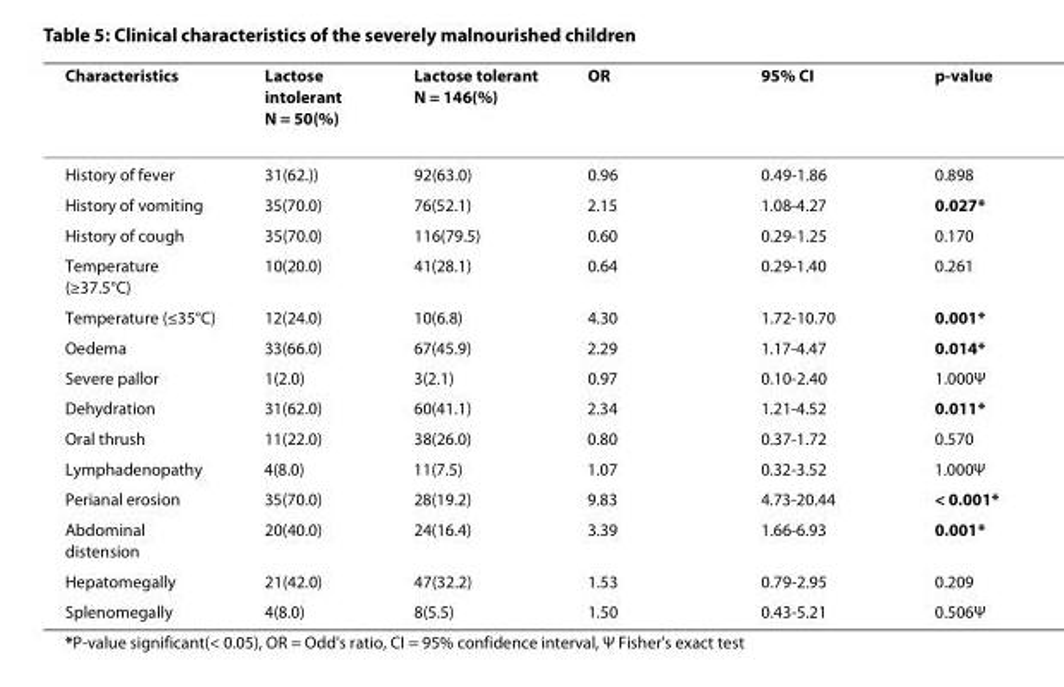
<table><thead><tr><td>Characteristics</td><td>Lactose intolerant N = 50(%)</td><td>Lactose tolerant N = 146(%)</td><td>OR</td><td>95% CI</td><td>p-value</td></tr></thead><tbody><tr><td>History of fever</td><td>31(62.))</td><td>92(63.0)</td><td>0.96</td><td>0.49-1.86</td><td>0.898</td></tr><tr><td>History of vomiting</td><td>35(70.0)</td><td>76(52.1)</td><td>2.15</td><td>1.08-4.27</td><td>0.027*</td></tr><tr><td>History of cough</td><td>35(70.0)</td><td>116(79.5)</td><td>0.60</td><td>0.29-1.25</td><td>0.170</td></tr><tr><td>Temperature (≥37.5°C)</td><td>10(20.0)</td><td>41(28.1)</td><td>0.64</td><td>0.29-1.40</td><td>0.261</td></tr><tr><td>Temperature (≤35°C)</td><td>12(24.0)</td><td>10(6.8)</td><td>4.30</td><td>1.72-10.70</td><td>0.001*</td></tr><tr><td>Oedema</td><td>33(66.0)</td><td>67(45.9)</td><td>2.29</td><td>1.17-4.47</td><td>0.014*</td></tr><tr><td>Severe pallor</td><td>1(2.0)</td><td>3(2.1)</td><td>0.97</td><td>0.10-2.40</td><td>1.000Ψ</td></tr><tr><td>Dehydration</td><td>31(62.0)</td><td>60(41.1)</td><td>2.34</td><td>1.21-4.52</td><td>0.011*</td></tr><tr><td>Oral thrush</td><td>11(22.0)</td><td>38(26.0)</td><td>0.80</td><td>0.37-1.72</td><td>0.570</td></tr><tr><td>Lymphadenopathy</td><td>4(8.0)</td><td>11(7.5)</td><td>1.07</td><td>0.32-3.52</td><td>1.000Ψ</td></tr><tr><td>Perianal erosion</td><td>35(70.0)</td><td>28(19.2)</td><td>9.83</td><td>4.73-20.44</td><td>&lt; 0.001*</td></tr><tr><td>Abdominal distension</td><td>20(40.0)</td><td>24(16.4)</td><td>3.39</td><td>1.66-6.93</td><td>0.001*</td></tr><tr><td>Hepatomegally</td><td>21(42.0)</td><td>47(32.2)</td><td>1.53</td><td>0.79-2.95</td><td>0.209</td></tr><tr><td>Splenomegally</td><td>4(8.0)</td><td>8(5.5)</td><td>1.50</td><td>0.43-5.21</td><td>0.506Ψ</td></tr></tbody></table>